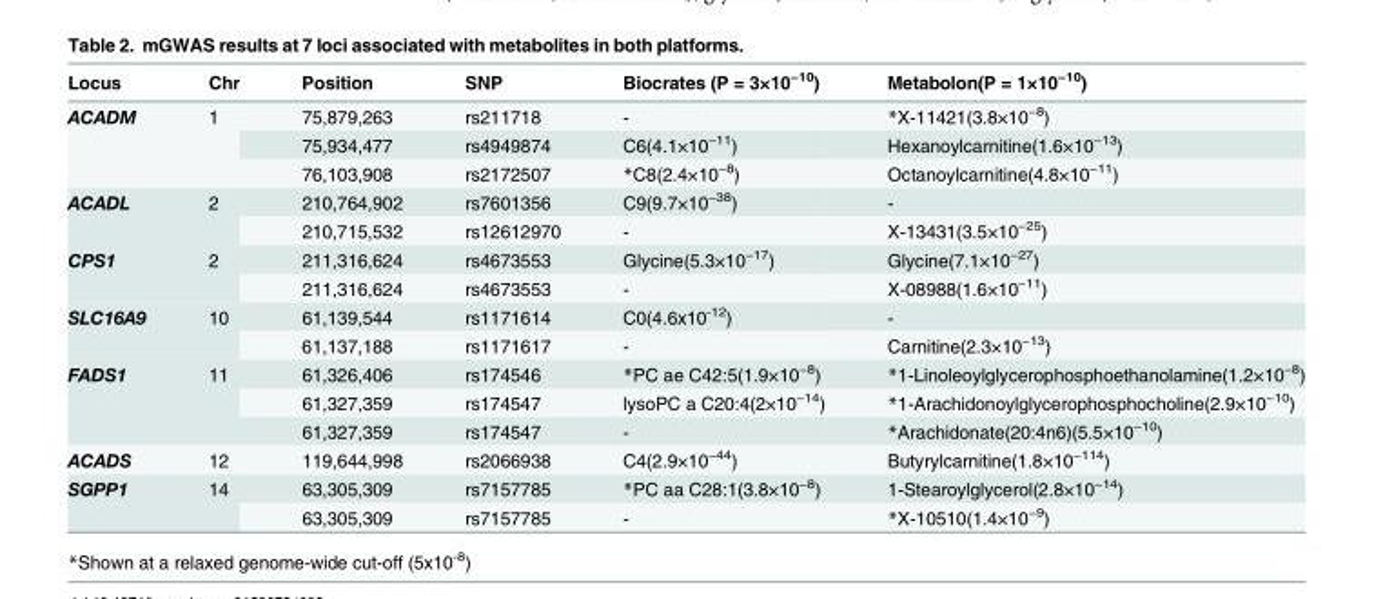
<table><thead><tr><td>Locus</td><td>Chr</td><td>Position</td><td>SNP</td><td>Biocrates (P = 3×10<sup>−10</sup>)</td><td>Metabolon(P = 1×10<sup>−10</sup>)</td></tr></thead><tbody><tr><td rowspan="3">ACADM</td><td rowspan="3">1</td><td>75,879,263</td><td>rs211718</td><td>-</td><td>*X-11421(3.8×10<sup>−8</sup>)</td></tr><tr><td>75,934,477</td><td>rs4949874</td><td>C6(4.1×10<sup>−11</sup>)</td><td>Hexanoylcarnitine(1.6×10<sup>−13</sup>)</td></tr><tr><td>76,103,908</td><td>rs2172507</td><td>*C8(2.4×10<sup>−8</sup>)</td><td>Octanoylcarnitine(4.8×10<sup>−11</sup>)</td></tr><tr><td rowspan="2">ACADL</td><td rowspan="2">2</td><td>210,764,902</td><td>rs7601356</td><td>C9(9.7×10<sup>−38</sup>)</td><td>-</td></tr><tr><td>210,715,532</td><td>rs12612970</td><td>-</td><td>X-13431(3.5×10<sup>−25</sup>)</td></tr><tr><td rowspan="2">CPS1</td><td rowspan="2">2</td><td>211,316,624</td><td>rs4673553</td><td>Glycine(5.3×10<sup>−17</sup>)</td><td>Glycine(7.1×10<sup>−27</sup>)</td></tr><tr><td>211,316,624</td><td>rs4673553</td><td>-</td><td>X-08988(1.6×10<sup>−11</sup>)</td></tr><tr><td rowspan="2">SLC16A9</td><td rowspan="2">10</td><td>61,139,544</td><td>rs1171614</td><td>C0(4.6x10<sup>-12</sup>)</td><td>-</td></tr><tr><td>61,137,188</td><td>rs1171617</td><td>-</td><td>Carnitine(2.3×10<sup>−13</sup>)</td></tr><tr><td rowspan="3">FADS1</td><td rowspan="3">11</td><td>61,326,406</td><td>rs174546</td><td>*PC ae C42:5(1.9×10<sup>−8</sup>)</td><td>*1-Linoleoylglycerophosphoethanolamine(1.2×10<sup>−8</sup>)</td></tr><tr><td>61,327,359</td><td>rs174547</td><td>lysoPC a C20:4(2×10<sup>−14</sup>)</td><td>*1-Arachidonoylglycerophosphocholine(2.9×10<sup>−10</sup>)</td></tr><tr><td>61,327,359</td><td>rs174547</td><td>-</td><td>*Arachidonate(20:4n6)(5.5×10<sup>−10</sup>)</td></tr><tr><td>ACADS</td><td>12</td><td>119,644,998</td><td>rs2066938</td><td>C4(2.9×10<sup>−44</sup>)</td><td>Butyrylcarnitine(1.8×10<sup>−114</sup>)</td></tr><tr><td rowspan="2">SGPP1</td><td rowspan="2">14</td><td>63,305,309</td><td>rs7157785</td><td>*PC aa C28:1(3.8×10<sup>−8</sup>)</td><td>1-Stearoylglycerol(2.8×10<sup>−14</sup>)</td></tr><tr><td>63,305,309</td><td>rs7157785</td><td>-</td><td>*X-10510(1.4×10<sup>−9</sup>)</td></tr></tbody></table>